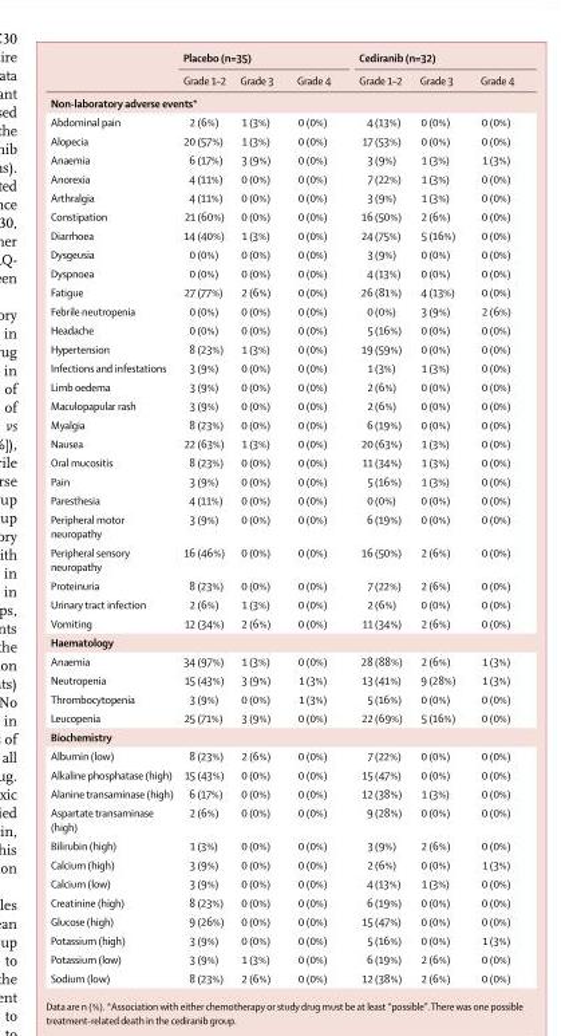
<table><thead><tr><td rowspan="2"></td><td colspan="3">Placebo (n=35)</td><td colspan="3">Cediranib (n=32)</td></tr><tr><td>Grade 1–2</td><td>Grade 3</td><td>Grade 4</td><td>Grade 1–2</td><td>Grade 3</td><td>Grade 4</td></tr></thead><tbody><tr><td colspan="7">Non-laboratory adverse events*</td></tr><tr><td>Abdominal pain</td><td>2 (6%)</td><td>1 (3%)</td><td>0 (0%)</td><td>4 (13%)</td><td>0 (0%)</td><td>0 (0%)</td></tr><tr><td>Alopecia</td><td>20 (57%)</td><td>1 (3%)</td><td>0 (0%)</td><td>17 (53%)</td><td>0 (0%)</td><td>0 (0%)</td></tr><tr><td>Anaemia</td><td>6 (17%)</td><td>3 (9%)</td><td>0 (0%)</td><td>3 (9%)</td><td>1 (3%)</td><td>1 (3%)</td></tr><tr><td>Anorexia</td><td>4 (11%)</td><td>0 (0%)</td><td>0 (0%)</td><td>7 (22%)</td><td>1 (3%)</td><td>0 (0%)</td></tr><tr><td>Arthralgia</td><td>4 (11%)</td><td>0 (0%)</td><td>0 (0%)</td><td>3 (9%)</td><td>1 (3%)</td><td>0 (0%)</td></tr><tr><td>Constipation</td><td>21 (60%)</td><td>0 (0%)</td><td>0 (0%)</td><td>16 (50%)</td><td>2 (6%)</td><td>0 (0%)</td></tr><tr><td>Diarrhoea</td><td>14 (40%)</td><td>1 (3%)</td><td>0 (0%)</td><td>24 (75%)</td><td>5 (16%)</td><td>0 (0%)</td></tr><tr><td>Dysgeusia</td><td>0 (0%)</td><td>0 (0%)</td><td>0 (0%)</td><td>3 (9%)</td><td>0 (0%)</td><td>0 (0%)</td></tr><tr><td>Dyspnoea</td><td>0 (0%)</td><td>0 (0%)</td><td>0 (0%)</td><td>4 (13%)</td><td>0 (0%)</td><td>0 (0%)</td></tr><tr><td>Fatigue</td><td>27 (77%)</td><td>2 (6%)</td><td>0 (0%)</td><td>26 (81%)</td><td>4 (13%)</td><td>0 (0%)</td></tr><tr><td>Febrile neutropenia</td><td>0 (0%)</td><td>0 (0%)</td><td>0 (0%)</td><td>0 (0%)</td><td>3 (9%)</td><td>2 (6%)</td></tr><tr><td>Headache</td><td>0 (0%)</td><td>0 (0%)</td><td>0 (0%)</td><td>5 (16%)</td><td>0 (0%)</td><td>0 (0%)</td></tr><tr><td>Hypertension</td><td>8 (23%)</td><td>1 (3%)</td><td>0 (0%)</td><td>19 (59%)</td><td>0 (0%)</td><td>0 (0%)</td></tr><tr><td>Infections and infestations</td><td>3 (9%)</td><td>0 (0%)</td><td>0 (0%)</td><td>1 (3%)</td><td>1 (3%)</td><td>0 (0%)</td></tr><tr><td>Limb oedema</td><td>3 (9%)</td><td>0 (0%)</td><td>0 (0%)</td><td>2 (6%)</td><td>0 (0%)</td><td>0 (0%)</td></tr><tr><td>Maculopapular rash</td><td>3 (9%)</td><td>0 (0%)</td><td>0 (0%)</td><td>2 (6%)</td><td>0 (0%)</td><td>0 (0%)</td></tr><tr><td>Myalgia</td><td>8 (23%)</td><td>0 (0%)</td><td>0 (0%)</td><td>6 (19%)</td><td>0 (0%)</td><td>0 (0%)</td></tr><tr><td>Nausea</td><td>22 (63%)</td><td>1 (3%)</td><td>0 (0%)</td><td>20 (63%)</td><td>1 (3%)</td><td>0 (0%)</td></tr><tr><td>Oral mucositis</td><td>8 (23%)</td><td>0 (0%)</td><td>0 (0%)</td><td>11 (34%)</td><td>1 (3%)</td><td>0 (0%)</td></tr><tr><td>Pain</td><td>3 (9%)</td><td>0 (0%)</td><td>0 (0%)</td><td>5 (16%)</td><td>1 (3%)</td><td>0 (0%)</td></tr><tr><td>Paresthesia</td><td>4 (11%)</td><td>0 (0%)</td><td>0 (0%)</td><td>0 (0%)</td><td>0 (0%)</td><td>0 (0%)</td></tr><tr><td>Peripheral motor neuropathy</td><td>3 (9%)</td><td>0 (0%)</td><td>0 (0%)</td><td>6 (19%)</td><td>0 (0%)</td><td>0 (0%)</td></tr><tr><td>Peripheral sensory neuropathy</td><td>16 (46%)</td><td>0 (0%)</td><td>0 (0%)</td><td>16 (50%)</td><td>2 (6%)</td><td>0 (0%)</td></tr><tr><td>Proteinuria</td><td>8 (23%)</td><td>0 (0%)</td><td>0 (0%)</td><td>7 (22%)</td><td>2 (6%)</td><td>0 (0%)</td></tr><tr><td>Urinary tract infection</td><td>2 (6%)</td><td>1 (3%)</td><td>0 (0%)</td><td>2 (6%)</td><td>0 (0%)</td><td>0 (0%)</td></tr><tr><td>Vomiting</td><td>12 (34%)</td><td>2 (6%)</td><td>0 (0%)</td><td>11 (34%)</td><td>2 (6%)</td><td>0 (0%)</td></tr><tr><td colspan="7">Haematology</td></tr><tr><td>Anaemia</td><td>34 (97%)</td><td>1 (3%)</td><td>0 (0%)</td><td>28 (88%)</td><td>2 (6%)</td><td>1 (3%)</td></tr><tr><td>Neutropenia</td><td>15 (43%)</td><td>3 (9%)</td><td>1 (3%)</td><td>13 (41%)</td><td>9 (28%)</td><td>1 (3%)</td></tr><tr><td>Thrombocytopenia</td><td>3 (9%)</td><td>0 (0%)</td><td>1 (3%)</td><td>5 (16%)</td><td>0 (0%)</td><td>0 (0%)</td></tr><tr><td>Leucopenia</td><td>25 (71%)</td><td>3 (9%)</td><td>0 (0%)</td><td>22 (69%)</td><td>5 (16%)</td><td>0 (0%)</td></tr><tr><td colspan="7">Biochemistry</td></tr><tr><td>Albumin (low)</td><td>8 (23%)</td><td>2 (6%)</td><td>0 (0%)</td><td>7 (22%)</td><td>0 (0%)</td><td>0 (0%)</td></tr><tr><td>Alkaline phosphatase (high)</td><td>15 (43%)</td><td>0 (0%)</td><td>0 (0%)</td><td>15 (47%)</td><td>0 (0%)</td><td>0 (0%)</td></tr><tr><td>Alanine transaminase (high)</td><td>6 (17%)</td><td>0 (0%)</td><td>0 (0%)</td><td>12 (38%)</td><td>1 (3%)</td><td>0 (0%)</td></tr><tr><td>Aspartate transaminase (high)</td><td>2 (6%)</td><td>0 (0%)</td><td>0 (0%)</td><td>9 (28%)</td><td>0 (0%)</td><td>0 (0%)</td></tr><tr><td>Bilirubin (high)</td><td>1 (3%)</td><td>0 (0%)</td><td>0 (0%)</td><td>3 (9%)</td><td>2 (6%)</td><td>0 (0%)</td></tr><tr><td>Calcium (high)</td><td>3 (9%)</td><td>0 (0%)</td><td>0 (0%)</td><td>2 (6%)</td><td>0 (0%)</td><td>1 (3%)</td></tr><tr><td>Calcium (low)</td><td>3 (9%)</td><td>0 (0%)</td><td>0 (0%)</td><td>4 (13%)</td><td>1 (3%)</td><td>0 (0%)</td></tr><tr><td>Creatinine (high)</td><td>8 (23%)</td><td>0 (0%)</td><td>0 (0%)</td><td>6 (19%)</td><td>0 (0%)</td><td>0 (0%)</td></tr><tr><td>Glucose (high)</td><td>9 (26%)</td><td>0 (0%)</td><td>0 (0%)</td><td>15 (47%)</td><td>0 (0%)</td><td>0 (0%)</td></tr><tr><td>Potassium (high)</td><td>3 (9%)</td><td>0 (0%)</td><td>0 (0%)</td><td>5 (16%)</td><td>0 (0%)</td><td>1 (3%)</td></tr><tr><td>Potassium (low)</td><td>3 (9%)</td><td>1 (3%)</td><td>0 (0%)</td><td>6 (19%)</td><td>2 (6%)</td><td>0 (0%)</td></tr><tr><td>Sodium (low)</td><td>8 (23%)</td><td>2 (6%)</td><td>0 (0%)</td><td>12 (38%)</td><td>2 (6%)</td><td>0 (0%)</td></tr></tbody></table>